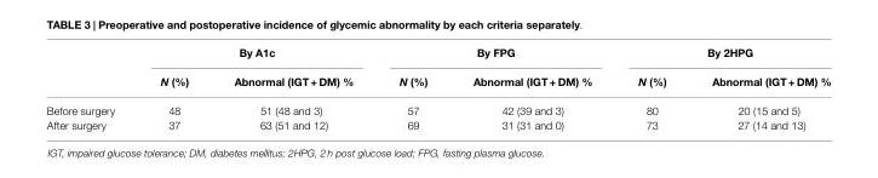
<table><thead><tr><td rowspan="2"></td><td colspan="2">By A1c</td><td colspan="2">By FPG</td><td colspan="2">By 2HPG</td></tr><tr><td>N (%)</td><td>Abnormal (IGT + DM) %</td><td>N (%)</td><td>Abnormal (IGT + DM) %</td><td>N (%)</td><td>Abnormal (IGT + DM) %</td></tr></thead><tbody><tr><td>Before surgery</td><td>48</td><td>51 (48 and 3)</td><td>57</td><td>42 (39 and 3)</td><td>80</td><td>20 (15 and 5)</td></tr><tr><td>After surgery</td><td>37</td><td>63 (51 and 12)</td><td>69</td><td>31 (31 and 0)</td><td>73</td><td>27 (14 and 13)</td></tr></tbody></table>